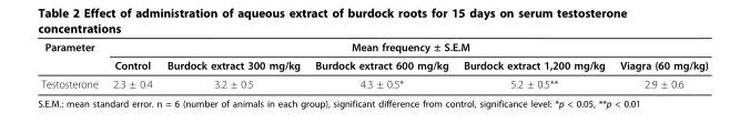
<table><thead><tr><td rowspan="2">Parameter</td><td colspan="5">Mean frequency ± S.E.M</td></tr><tr><td>Control</td><td>Burdock extract 300 mg/kg</td><td>Burdock extract 600 mg/kg</td><td>Burdock extract 1,200 mg/kg</td><td>Viagra (60 mg/kg)</td></tr></thead><tbody><tr><td>Testosterone</td><td>2.3 ± 0.4</td><td>3.2 ± 0.5</td><td>4.3 ± 0.5*</td><td>5.2 ± 0.5**</td><td>2.9 ± 0.6</td></tr></tbody></table>